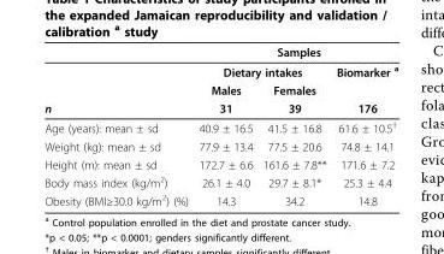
<table><thead><tr><td rowspan="3"></td><td colspan="3">Samples</td></tr><tr><td colspan="2">Dietary intakes</td><td rowspan="2">Biomarker <sup>a</sup></td></tr><tr><td>Males</td><td>Females</td></tr></thead><tbody><tr><td>n</td><td>31</td><td>39</td><td>176</td></tr><tr><td>Age (years): mean ± sd</td><td>40.9 ± 16.5</td><td>41.5 ± 16.8</td><td>61.6 ± 10.5<sup>†</sup></td></tr><tr><td>Weight (kg): mean ± sd</td><td>77.9 ± 13.4</td><td>77.5 ± 20.6</td><td>74.8 ± 14.1</td></tr><tr><td>Height (m): mean ± sd</td><td>172.7 ± 6.6</td><td>161.6 ± 7.8**</td><td>171.6 ± 7.2</td></tr><tr><td>Body mass index (kg/m<sup>2</sup>)</td><td>26.1 ± 4.0</td><td>29.7 ± 8.1*</td><td>25.3 ± 4.4</td></tr><tr><td>Obesity (BMI≥30.0 kg/m<sup>2</sup>) (%)</td><td>14.3</td><td>34.2</td><td>14.8</td></tr></tbody></table>